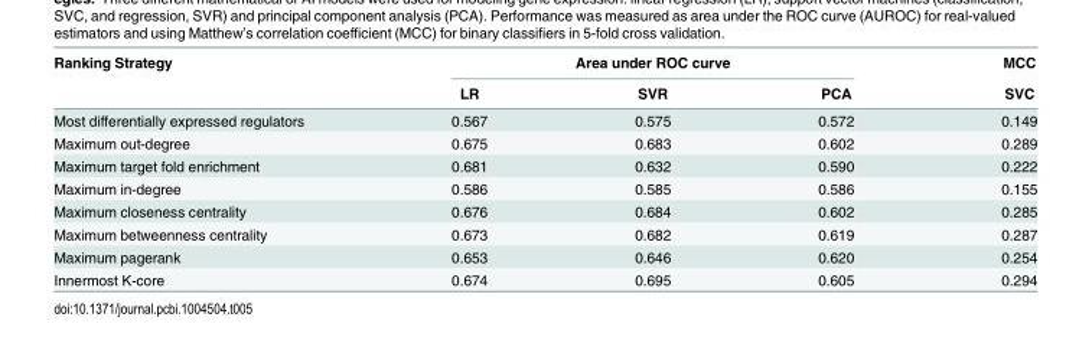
<table><thead><tr><td rowspan="2">Ranking Strategy</td><td colspan="3">Area under ROC curve</td><td rowspan="2">MCC SVC</td></tr><tr><td>LR</td><td>SVR</td><td>PCA</td></tr></thead><tbody><tr><td>Most differentially expressed regulators</td><td>0.567</td><td>0.575</td><td>0.572</td><td>0.149</td></tr><tr><td>Maximum out-degree</td><td>0.675</td><td>0.683</td><td>0.602</td><td>0.289</td></tr><tr><td>Maximum target fold enrichment</td><td>0.681</td><td>0.632</td><td>0.590</td><td>0.222</td></tr><tr><td>Maximum in-degree</td><td>0.586</td><td>0.585</td><td>0.586</td><td>0.155</td></tr><tr><td>Maximum closeness centrality</td><td>0.676</td><td>0.684</td><td>0.602</td><td>0.285</td></tr><tr><td>Maximum betweenness centrality</td><td>0.673</td><td>0.682</td><td>0.619</td><td>0.287</td></tr><tr><td>Maximum pagerank</td><td>0.653</td><td>0.646</td><td>0.620</td><td>0.254</td></tr><tr><td>Innermost K-core</td><td>0.674</td><td>0.695</td><td>0.605</td><td>0.294</td></tr></tbody></table>